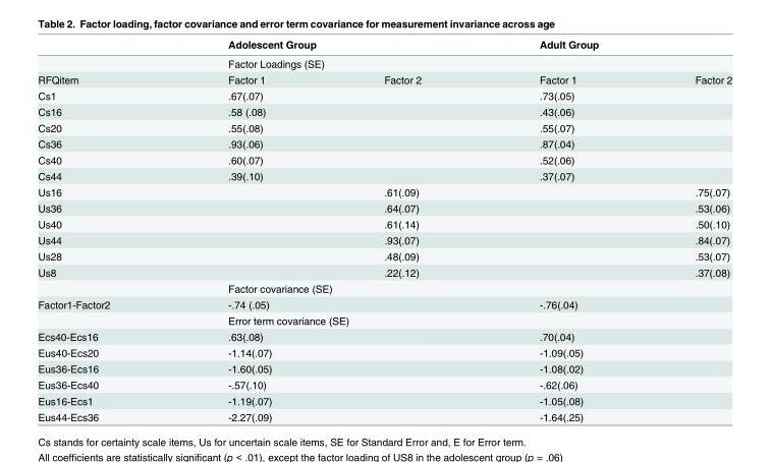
<table><thead><tr><td rowspan="3">RFQitem</td><td colspan="2">Adolescent Group</td><td colspan="2">Adult Group</td></tr><tr><td colspan="4">Factor Loadings (SE)</td></tr><tr><td>Factor 1</td><td>Factor 2</td><td>Factor 1</td><td>Factor 2</td></tr></thead><tbody><tr><td>Cs1</td><td>.67(.07)</td><td></td><td>.73(.05)</td><td></td></tr><tr><td>Cs16</td><td>.58 (.08)</td><td></td><td>.43(.06)</td><td></td></tr><tr><td>Cs20</td><td>.55(.08)</td><td></td><td>.55(.07)</td><td></td></tr><tr><td>Cs36</td><td>.93(.06)</td><td></td><td>.87(.04)</td><td></td></tr><tr><td>Cs40</td><td>.60(.07)</td><td></td><td>.52(.06)</td><td></td></tr><tr><td>Cs44</td><td>.39(.10)</td><td></td><td>.37(.07)</td><td></td></tr><tr><td>Us16</td><td></td><td>.61(.09)</td><td></td><td>.75(.07)</td></tr><tr><td>Us36</td><td></td><td>.64(.07)</td><td></td><td>.53(.06)</td></tr><tr><td>Us40</td><td></td><td>.61(.14)</td><td></td><td>.50(.10)</td></tr><tr><td>Us44</td><td></td><td>.93(.07)</td><td></td><td>.84(.07)</td></tr><tr><td>Us28</td><td></td><td>.48(.09)</td><td></td><td>.53(.07)</td></tr><tr><td rowspan="2">Us8</td><td></td><td>.22(.12)</td><td></td><td>.37(.08)</td></tr><tr><td colspan="4">Factor covariance (SE)</td></tr><tr><td rowspan="2">Factor1-Factor2</td><td colspan="2">-.74 (.05)</td><td colspan="2">-.76(.04)</td></tr><tr><td colspan="4">Error term covariance (SE)</td></tr><tr><td>Ecs40-Ecs16</td><td colspan="2">.63(.08)</td><td colspan="2">.70(.04)</td></tr><tr><td>Eus40-Ecs20</td><td colspan="2">-1.14(.07)</td><td colspan="2">-1.09(.05)</td></tr><tr><td>Eus36-Ecs16</td><td colspan="2">-1.60(.05)</td><td colspan="2">-1.08(.02)</td></tr><tr><td>Eus36-Ecs40</td><td colspan="2">-.57(.10)</td><td colspan="2">-.62(.06)</td></tr><tr><td>Eus16-Ecs1</td><td colspan="2">-1.19(.07)</td><td colspan="2">-1.05(.08)</td></tr><tr><td>Eus44-Ecs36</td><td colspan="2">-2.27(.09)</td><td colspan="2">-1.64(.25)</td></tr></tbody></table>